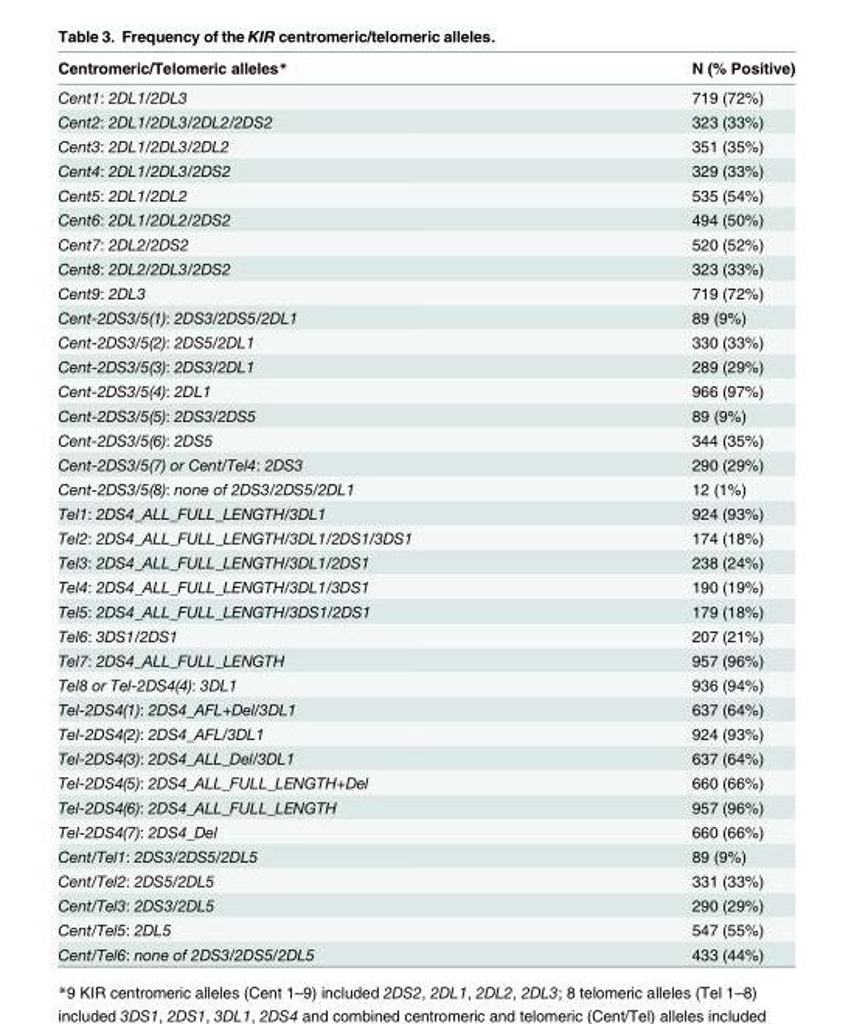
<table><thead><tr><td>Centromeric/Telomeric alleles*</td><td>N (% Positive)</td></tr></thead><tbody><tr><td>Cent1: 2DL1/2DL3</td><td>719 (72%)</td></tr><tr><td>Cent2: 2DL1/2DL3/2DL2/2DS2</td><td>323 (33%)</td></tr><tr><td>Cent3: 2DL1/2DL3/2DL2</td><td>351 (35%)</td></tr><tr><td>Cent4: 2DL1/2DL3/2DS2</td><td>329 (33%)</td></tr><tr><td>Cent5: 2DL1/2DL2</td><td>535 (54%)</td></tr><tr><td>Cent6: 2DL1/2DL2/2DS2</td><td>494 (50%)</td></tr><tr><td>Cent7: 2DL2/2DS2</td><td>520 (52%)</td></tr><tr><td>Cent8: 2DL2/2DL3/2DS2</td><td>323 (33%)</td></tr><tr><td>Cent9: 2DL3</td><td>719 (72%)</td></tr><tr><td>Cent-2DS3/5(1): 2DS3/2DS5/2DL1</td><td>89 (9%)</td></tr><tr><td>Cent-2DS3/5(2): 2DS5/2DL1</td><td>330 (33%)</td></tr><tr><td>Cent-2DS3/5(3): 2DS3/2DL1</td><td>289 (29%)</td></tr><tr><td>Cent-2DS3/5(4): 2DL1</td><td>966 (97%)</td></tr><tr><td>Cent-2DS3/5(5): 2DS3/2DS5</td><td>89 (9%)</td></tr><tr><td>Cent-2DS3/5(6): 2DS5</td><td>344 (35%)</td></tr><tr><td>Cent-2DS3/5(7) or Cent/Tel4: 2DS3</td><td>290 (29%)</td></tr><tr><td>Cent-2DS3/5(8): none of 2DS3/2DS5/2DL1</td><td>12 (1%)</td></tr><tr><td>Tel1: 2DS4_ALL_FULL_LENGTH/3DL1</td><td>924 (93%)</td></tr><tr><td>Tel2: 2DS4_ALL_FULL_LENGTH/3DL1/2DS1/3DS1</td><td>174 (18%)</td></tr><tr><td>Tel3: 2DS4_ALL_FULL_LENGTH/3DL1/2DS1</td><td>238 (24%)</td></tr><tr><td>Tel4: 2DS4_ALL_FULL_LENGTH/3DL1/3DS1</td><td>190 (19%)</td></tr><tr><td>Tel5: 2DS4_ALL_FULL_LENGTH/3DS1/2DS1</td><td>179 (18%)</td></tr><tr><td>Tel6: 3DS1/2DS1</td><td>207 (21%)</td></tr><tr><td>Tel7: 2DS4_ALL_FULL_LENGTH</td><td>957 (96%)</td></tr><tr><td>Tel8 or Tel-2DS4(4): 3DL1</td><td>936 (94%)</td></tr><tr><td>Tel-2DS4(1): 2DS4_AFL+Del/3DL1</td><td>637 (64%)</td></tr><tr><td>Tel-2DS4(2): 2DS4_AFL/3DL1</td><td>924 (93%)</td></tr><tr><td>Tel-2DS4(3): 2DS4_ALL_Del/3DL1</td><td>637 (64%)</td></tr><tr><td>Tel-2DS4(5): 2DS4_ALL_FULL_LENGTH+Del</td><td>660 (66%)</td></tr><tr><td>Tel-2DS4(6): 2DS4_ALL_FULL_LENGTH</td><td>957 (96%)</td></tr><tr><td>Tel-2DS4(7): 2DS4_Del</td><td>660 (66%)</td></tr><tr><td>Cent/Tel1: 2DS3/2DS5/2DL5</td><td>89 (9%)</td></tr><tr><td>Cent/Tel2: 2DS5/2DL5</td><td>331 (33%)</td></tr><tr><td>Cent/Tel3: 2DS3/2DL5</td><td>290 (29%)</td></tr><tr><td>Cent/Tel5: 2DL5</td><td>547 (55%)</td></tr><tr><td>Cent/Tel6: none of 2DS3/2DS5/2DL5</td><td>433 (44%)</td></tr></tbody></table>